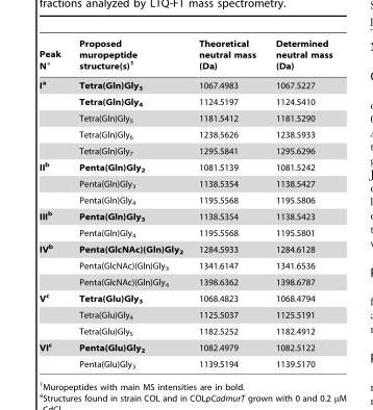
<table><thead><tr><td>Peak N°</td><td>Proposed muropeptide structure(s)<sup>1</sup></td><td>Theoretical neutral mass (Da)</td><td>Determined neutral mass (Da)</td></tr></thead><tbody><tr><td rowspan="5">Ia</td><td>Tetra(Gln)Gly<sub>3</sub></td><td>1067.4983</td><td>1067.5227</td></tr><tr><td>Tetra(Gln)Gly<sub>4</sub></td><td>1124.5197</td><td>1124.5410</td></tr><tr><td>Tetra(Gln)Gly<sub>5</sub></td><td>1181.5412</td><td>1181.5290</td></tr><tr><td>Tetra(Gln)Gly<sub>6</sub></td><td>1238.5626</td><td>1238.5933</td></tr><tr><td>Tetra(Gln)Gly<sub>7</sub></td><td>1295.5841</td><td>1295.6296</td></tr><tr><td rowspan="3">IIb</td><td>Penta(Gln)Gly<sub>2</sub></td><td>1081.5139</td><td>1081.5242</td></tr><tr><td>Penta(Gln)Gly<sub>3</sub></td><td>1138.5354</td><td>1138.5427</td></tr><tr><td>Penta(Gln)Gly<sub>4</sub></td><td>1195.5568</td><td>1195.5806</td></tr><tr><td rowspan="2">IIIb</td><td>Penta(Gln)Gly<sub>3</sub></td><td>1138.5354</td><td>1138.5423</td></tr><tr><td>Penta(Gln)Gly<sub>4</sub></td><td>1195.5568</td><td>1195.5801</td></tr><tr><td rowspan="3">IVb</td><td>Penta(GlcNAc)(Gln)Gly<sub>2</sub></td><td>1284.5933</td><td>1284.6128</td></tr><tr><td>Penta(GlcNAc)(Gln)Gly<sub>3</sub></td><td>1341.6147</td><td>1341.6536</td></tr><tr><td>Penta(GlcNAc)(Gln)Gly<sub>4</sub></td><td>1398.6362</td><td>1398.6787</td></tr><tr><td rowspan="3">Vc</td><td>Tetra(Glu)Gly<sub>3</sub></td><td>1068.4823</td><td>1068.4794</td></tr><tr><td>Tetra(Glu)Gly<sub>4</sub></td><td>1125.5037</td><td>1125.5191</td></tr><tr><td>Tetra(Glu)Gly<sub>5</sub></td><td>1182.5252</td><td>1182.4912</td></tr><tr><td rowspan="2">VIc</td><td>Penta(Glu)Gly<sub>2</sub></td><td>1082.4979</td><td>1082.5122</td></tr><tr><td>Penta(Glu)Gly<sub>3</sub></td><td>1139.5194</td><td>1139.5170</td></tr></tbody></table>